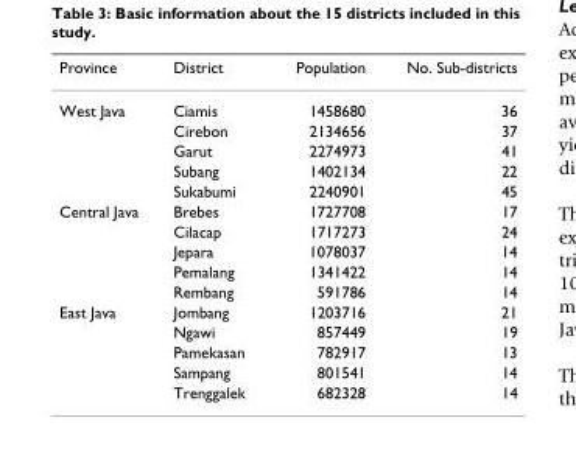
<table><thead><tr><td>Province</td><td>District</td><td>Population</td><td>No. Sub-districts</td></tr></thead><tbody><tr><td rowspan="5">West Java</td><td>Ciamis</td><td>1458680</td><td>36</td></tr><tr><td>Cirebon</td><td>2134656</td><td>37</td></tr><tr><td>Garut</td><td>2274973</td><td>41</td></tr><tr><td>Subang</td><td>1402134</td><td>22</td></tr><tr><td>Sukabumi</td><td>2240901</td><td>45</td></tr><tr><td rowspan="5">Central Java</td><td>Brebes</td><td>1727708</td><td>17</td></tr><tr><td>Cilacap</td><td>1717273</td><td>24</td></tr><tr><td>Jepara</td><td>1078037</td><td>14</td></tr><tr><td>Pemalang</td><td>1341422</td><td>14</td></tr><tr><td>Rembang</td><td>591786</td><td>14</td></tr><tr><td rowspan="5">East Java</td><td>Jombang</td><td>1203716</td><td>21</td></tr><tr><td>Ngawi</td><td>857449</td><td>19</td></tr><tr><td>Pamekasan</td><td>782917</td><td>13</td></tr><tr><td>Sampang</td><td>801541</td><td>14</td></tr><tr><td>Trenggalek</td><td>682328</td><td>14</td></tr></tbody></table>